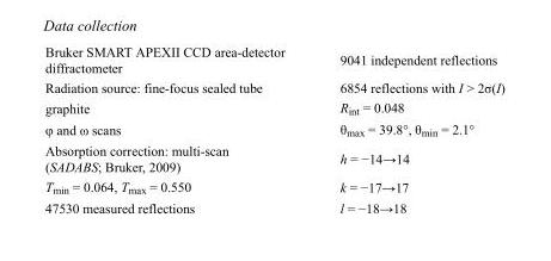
<table><tbody><tr><td>Bruker SMART APEXII CCD area-detector diffractometer</td><td>9041 independent reflections</td></tr><tr><td>Radiation source: fine-focus sealed tube</td><td>6854 reflections with I &gt; 2σ(I)</td></tr><tr><td>graphite</td><td>R<sub>int</sub> = 0.048</td></tr><tr><td>φ and ω scans</td><td>θ<sub>max</sub> = 39.8°, θ<sub>min</sub> = 2.1°</td></tr><tr><td>Absorption correction: multi-scan (SADABS; Bruker, 2009)</td><td>h = −14→14</td></tr><tr><td>T<sub>min</sub> = 0.064, T<sub>max</sub> = 0.550</td><td>k = −17→17</td></tr><tr><td>47530 measured reflections</td><td>l = −18→18</td></tr></tbody></table>